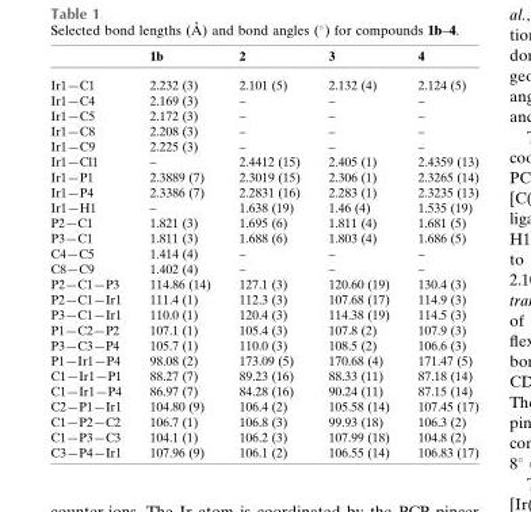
<table><thead><tr><td></td><td>1b</td><td>2</td><td>3</td><td>4</td></tr></thead><tbody><tr><td>Ir1—C1</td><td>2.232 (3)</td><td>2.101 (5)</td><td>2.132 (4)</td><td>2.124 (5)</td></tr><tr><td>Ir1—C4</td><td>2.169 (3)</td><td>–</td><td>–</td><td>–</td></tr><tr><td>Ir1—C5</td><td>2.172 (3)</td><td>–</td><td>–</td><td>–</td></tr><tr><td>Ir1—C8</td><td>2.208 (3)</td><td>–</td><td>–</td><td>–</td></tr><tr><td>Ir1—C9</td><td>2.225 (3)</td><td>–</td><td>–</td><td>–</td></tr><tr><td>Ir1—Cl1</td><td>–</td><td>2.4412 (15)</td><td>2.405 (1)</td><td>2.4359 (13)</td></tr><tr><td>Ir1—P1</td><td>2.3889 (7)</td><td>2.3019 (15)</td><td>2.306 (1)</td><td>2.3265 (14)</td></tr><tr><td>Ir1—P4</td><td>2.3386 (7)</td><td>2.2831 (16)</td><td>2.283 (1)</td><td>2.3235 (13)</td></tr><tr><td>Ir1—H1</td><td>–</td><td>1.638 (19)</td><td>1.46 (4)</td><td>1.535 (19)</td></tr><tr><td>P2—C1</td><td>1.821 (3)</td><td>1.695 (6)</td><td>1.811 (4)</td><td>1.681 (5)</td></tr><tr><td>P3—C1</td><td>1.811 (3)</td><td>1.688 (6)</td><td>1.803 (4)</td><td>1.686 (5)</td></tr><tr><td>C4—C5</td><td>1.414 (4)</td><td>–</td><td>–</td><td>–</td></tr><tr><td>C8—C9</td><td>1.402 (4)</td><td>–</td><td>–</td><td>–</td></tr><tr><td>P2—C1—P3</td><td>114.86 (14)</td><td>127.1 (3)</td><td>120.60 (19)</td><td>130.4 (3)</td></tr><tr><td>P2—C1—Ir1</td><td>111.4 (1)</td><td>112.3 (3)</td><td>107.68 (17)</td><td>114.9 (3)</td></tr><tr><td>P3—C1—Ir1</td><td>110.0 (1)</td><td>120.4 (3)</td><td>114.38 (19)</td><td>114.5 (3)</td></tr><tr><td>P1—C2—P2</td><td>107.1 (1)</td><td>105.4 (3)</td><td>107.8 (2)</td><td>107.9 (3)</td></tr><tr><td>P3—C3—P4</td><td>105.7 (1)</td><td>110.0 (3)</td><td>108.5 (2)</td><td>106.6 (3)</td></tr><tr><td>P1—Ir1—P4</td><td>98.08 (2)</td><td>173.09 (5)</td><td>170.68 (4)</td><td>171.47 (5)</td></tr><tr><td>C1—Ir1—P1</td><td>88.27 (7)</td><td>89.23 (16)</td><td>88.33 (11)</td><td>87.18 (14)</td></tr><tr><td>C1—Ir1—P4</td><td>86.97 (7)</td><td>84.28 (16)</td><td>90.24 (11)</td><td>87.15 (14)</td></tr><tr><td>C2—P1—Ir1</td><td>104.80 (9)</td><td>106.4 (2)</td><td>105.58 (14)</td><td>107.45 (17)</td></tr><tr><td>C1—P2—C2</td><td>106.7 (1)</td><td>106.8 (3)</td><td>99.93 (18)</td><td>106.3 (2)</td></tr><tr><td>C1—P3—C3</td><td>104.1 (1)</td><td>106.2 (3)</td><td>107.99 (18)</td><td>104.8 (2)</td></tr><tr><td>C3—P4—Ir1</td><td>107.96 (9)</td><td>106.1 (2)</td><td>106.55 (14)</td><td>106.83 (17)</td></tr></tbody></table>